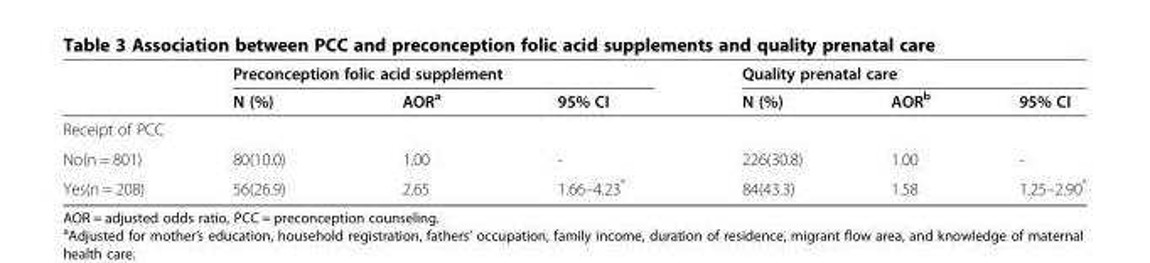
<table><thead><tr><td rowspan="2"></td><td colspan="3">Preconception folic acid supplement</td><td colspan="3">Quality prenatal care</td></tr><tr><td>N (%)</td><td>AOR<sup>a</sup></td><td>95% CI</td><td>N (%)</td><td>AOR<sup>b</sup></td><td>95% CI</td></tr></thead><tbody><tr><td colspan="7">Receipt of PCC</td></tr><tr><td>No(n = 801)</td><td>80(10.0)</td><td>1.00</td><td>-</td><td>226(30.8)</td><td>1.00</td><td>-</td></tr><tr><td>Yes(n = 208)</td><td>56(26.9)</td><td>2.65</td><td>1.66–4.23*</td><td>84(43.3)</td><td>1.58</td><td>1.25–2.90*</td></tr></tbody></table>